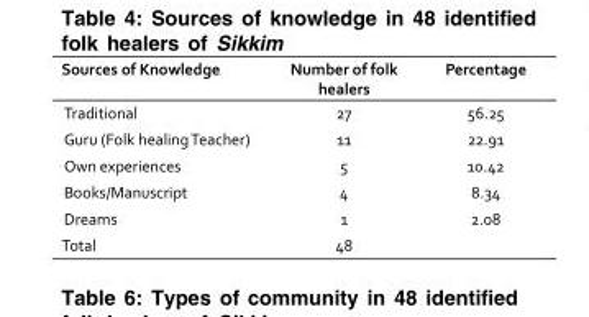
<table><thead><tr><td>Sources of Knowledge</td><td>Number of folk healers</td><td>Percentage</td></tr></thead><tbody><tr><td>Traditional</td><td>27</td><td>56.25</td></tr><tr><td>Guru (Folk healing Teacher)</td><td>11</td><td>22.91</td></tr><tr><td>Own experiences</td><td>5</td><td>10.42</td></tr><tr><td>Books/Manuscript</td><td>4</td><td>8.34</td></tr><tr><td>Dreams</td><td>1</td><td>2.08</td></tr><tr><td>Total</td><td>48</td><td></td></tr></tbody></table>